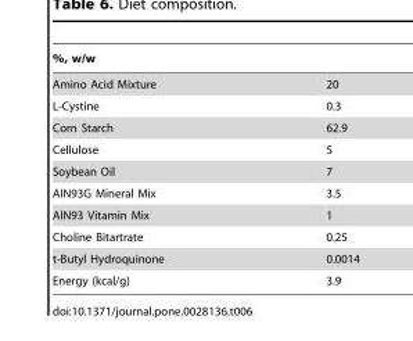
<table><thead><tr><td>%, w/w</td><td></td></tr></thead><tbody><tr><td>Amino Acid Mixture</td><td>20</td></tr><tr><td>L-Cystine</td><td>0.3</td></tr><tr><td>Corn Starch</td><td>62.9</td></tr><tr><td>Cellulose</td><td>5</td></tr><tr><td>Soybean Oil</td><td>7</td></tr><tr><td>AIN93G Mineral Mix</td><td>3.5</td></tr><tr><td>AIN93 Vitamin Mix</td><td>1</td></tr><tr><td>Choline Bitartrate</td><td>0.25</td></tr><tr><td>t-Butyl Hydroquinone</td><td>0.0014</td></tr><tr><td>Energy (kcal/g)</td><td>3.9</td></tr></tbody></table>